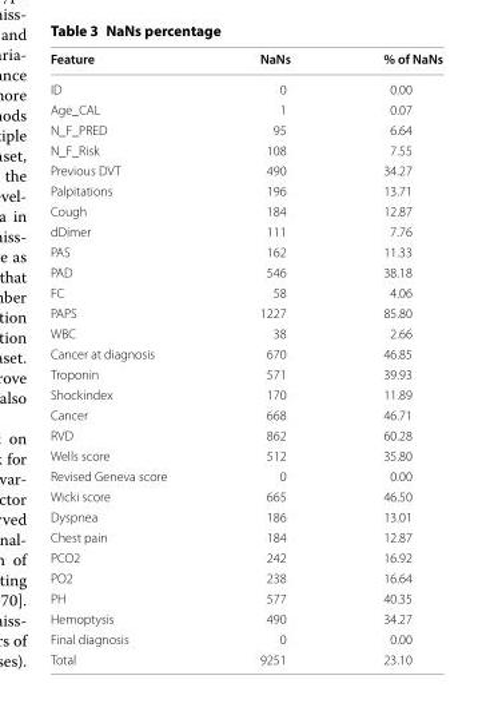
<table><thead><tr><td>Feature</td><td>NaNs</td><td>% of NaNs</td></tr></thead><tbody><tr><td>ID</td><td>0</td><td>0.00</td></tr><tr><td>Age_CAL</td><td>1</td><td>0.07</td></tr><tr><td>N_F_PRED</td><td>95</td><td>6.64</td></tr><tr><td>N_F_Risk</td><td>108</td><td>7.55</td></tr><tr><td>Previous DVT</td><td>490</td><td>34.27</td></tr><tr><td>Palpitations</td><td>196</td><td>13.71</td></tr><tr><td>Cough</td><td>184</td><td>12.87</td></tr><tr><td>dDimer</td><td>111</td><td>7.76</td></tr><tr><td>PAS</td><td>162</td><td>11.33</td></tr><tr><td>PAD</td><td>546</td><td>38.18</td></tr><tr><td>FC</td><td>58</td><td>4.06</td></tr><tr><td>PAPS</td><td>1227</td><td>85.80</td></tr><tr><td>WBC</td><td>38</td><td>2.66</td></tr><tr><td>Cancer at diagnosis</td><td>670</td><td>46.85</td></tr><tr><td>Troponin</td><td>571</td><td>39.93</td></tr><tr><td>Shockindex</td><td>170</td><td>11.89</td></tr><tr><td>Cancer</td><td>668</td><td>46.71</td></tr><tr><td>RVD</td><td>862</td><td>60.28</td></tr><tr><td>Wells score</td><td>512</td><td>35.80</td></tr><tr><td>Revised Geneva score</td><td>0</td><td>0.00</td></tr><tr><td>Wicki score</td><td>665</td><td>46.50</td></tr><tr><td>Dyspnea</td><td>186</td><td>13.01</td></tr><tr><td>Chest pain</td><td>184</td><td>12.87</td></tr><tr><td>PCO2</td><td>242</td><td>16.92</td></tr><tr><td>PO2</td><td>238</td><td>16.64</td></tr><tr><td>PH</td><td>577</td><td>40.35</td></tr><tr><td>Hemoptysis</td><td>490</td><td>34.27</td></tr><tr><td>Final diagnosis</td><td>0</td><td>0.00</td></tr><tr><td>Total</td><td>9251</td><td>23.10</td></tr></tbody></table>